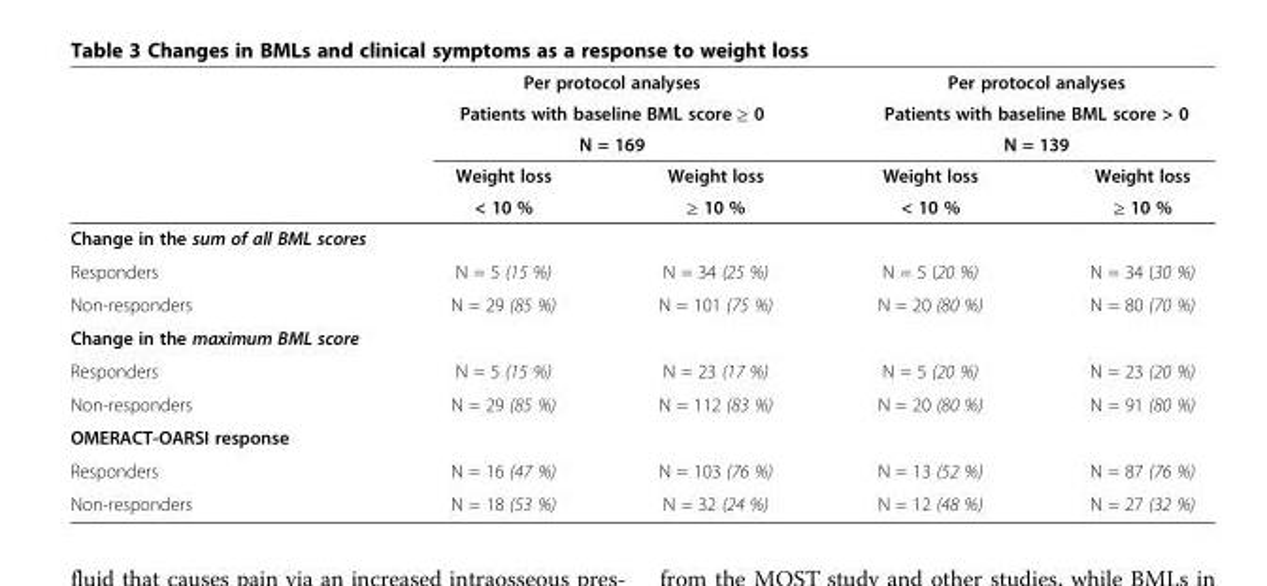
<table><thead><tr><td rowspan="5"></td><td rowspan="3" colspan="2">Per protocol analyses Patients with baseline BML score ≥ 0 N = 169</td><td rowspan="3" colspan="2">Per protocol analyses Patients with baseline BML score &gt; 0 N = 139</td></tr><tr></tr><tr></tr><tr><td rowspan="2">Weight loss &lt; 10 %</td><td rowspan="2">Weight loss ≥ 10 %</td><td rowspan="2">Weight loss &lt; 10 %</td><td rowspan="2">Weight loss ≥ 10 %</td></tr><tr></tr></thead><tbody><tr><td colspan="5">Change in the sum of all BML scores</td></tr><tr><td>Responders</td><td>N = 5 (15 %)</td><td>N = 34 (25 %)</td><td>N = 5 (20 %)</td><td>N = 34 (30 %)</td></tr><tr><td>Non-responders</td><td>N = 29 (85 %)</td><td>N = 101 (75 %)</td><td>N = 20 (80 %)</td><td>N = 80 (70 %)</td></tr><tr><td colspan="5">Change in the maximum BML score</td></tr><tr><td>Responders</td><td>N = 5 (15 %)</td><td>N = 23 (17 %)</td><td>N = 5 (20 %)</td><td>N = 23 (20 %)</td></tr><tr><td>Non-responders</td><td>N = 29 (85 %)</td><td>N = 112 (83 %)</td><td>N = 20 (80 %)</td><td>N = 91 (80 %)</td></tr><tr><td colspan="5">OMERACT-OARSI response</td></tr><tr><td>Responders</td><td>N = 16 (47 %)</td><td>N = 103 (76 %)</td><td>N = 13 (52 %)</td><td>N = 87 (76 %)</td></tr><tr><td>Non-responders</td><td>N = 18 (53 %)</td><td>N = 32 (24 %)</td><td>N = 12 (48 %)</td><td>N = 27 (32 %)</td></tr></tbody></table>